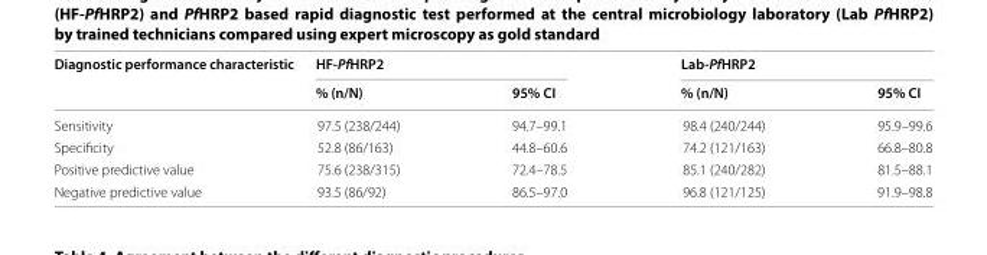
<table><thead><tr><td rowspan="2">Diagnostic performance characteristic</td><td colspan="2">HF-PfHRP2</td><td colspan="2">Lab-PfHRP2</td></tr><tr><td>% (n/N)</td><td>95% CI</td><td>% (n/N)</td><td>95% CI</td></tr></thead><tbody><tr><td>Sensitivity</td><td>97.5 (238/244)</td><td>94.7–99.1</td><td>98.4 (240/244)</td><td>95.9–99.6</td></tr><tr><td>Specificity</td><td>52.8 (86/163)</td><td>44.8–60.6</td><td>74.2 (121/163)</td><td>66.8–80.8</td></tr><tr><td>Positive predictive value</td><td>75.6 (238/315)</td><td>72.4–78.5</td><td>85.1 (240/282)</td><td>81.5–88.1</td></tr><tr><td>Negative predictive value</td><td>93.5 (86/92)</td><td>86.5–97.0</td><td>96.8 (121/125)</td><td>91.9–98.8</td></tr></tbody></table>